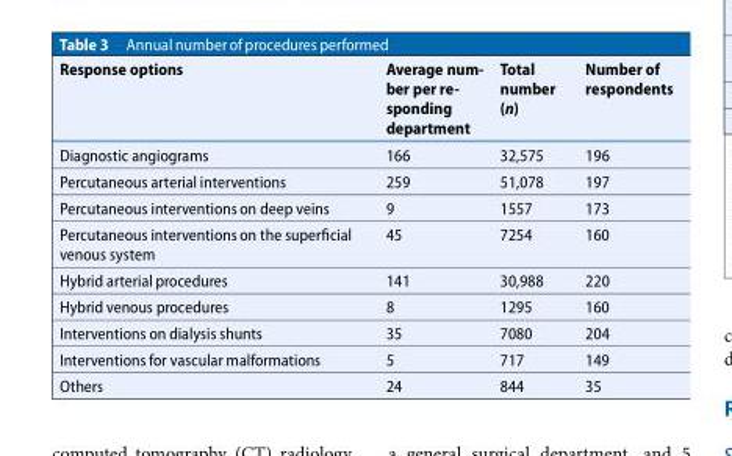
<table><thead><tr><td>Response options</td><td>Average num- ber per re- sponding department</td><td>Total number (n)</td><td>Number of respondents</td></tr></thead><tbody><tr><td>Diagnostic angiograms</td><td>166</td><td>32,575</td><td>196</td></tr><tr><td>Percutaneous arterial interventions</td><td>259</td><td>51,078</td><td>197</td></tr><tr><td>Percutaneous interventions on deep veins</td><td>9</td><td>1557</td><td>173</td></tr><tr><td>Percutaneous interventions on the superficial venous system</td><td>45</td><td>7254</td><td>160</td></tr><tr><td>Hybrid arterial procedures</td><td>141</td><td>30,988</td><td>220</td></tr><tr><td>Hybrid venous procedures</td><td>8</td><td>1295</td><td>160</td></tr><tr><td>Interventions on dialysis shunts</td><td>35</td><td>7080</td><td>204</td></tr><tr><td>Interventions for vascular malformations</td><td>5</td><td>717</td><td>149</td></tr><tr><td>Others</td><td>24</td><td>844</td><td>35</td></tr></tbody></table>